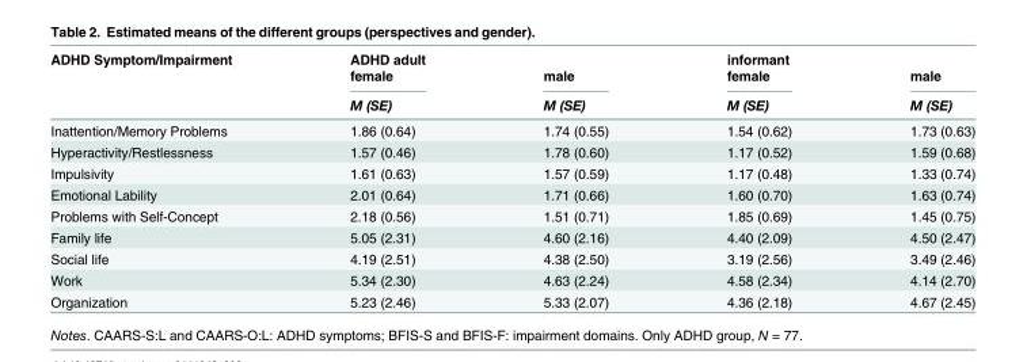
<table><thead><tr><td rowspan="3">ADHD Symptom/Impairment</td><td rowspan="3">ADHD adult female M (SE)</td><td rowspan="3">male M (SE)</td><td rowspan="3">informant female M (SE)</td><td rowspan="3">male M (SE)</td></tr><tr></tr><tr></tr></thead><tbody><tr><td>Inattention/Memory Problems</td><td>1.86 (0.64)</td><td>1.74 (0.55)</td><td>1.54 (0.62)</td><td>1.73 (0.63)</td></tr><tr><td>Hyperactivity/Restlessness</td><td>1.57 (0.46)</td><td>1.78 (0.60)</td><td>1.17 (0.52)</td><td>1.59 (0.68)</td></tr><tr><td>Impulsivity</td><td>1.61 (0.63)</td><td>1.57 (0.59)</td><td>1.17 (0.48)</td><td>1.33 (0.74)</td></tr><tr><td>Emotional Lability</td><td>2.01 (0.64)</td><td>1.71 (0.66)</td><td>1.60 (0.70)</td><td>1.63 (0.74)</td></tr><tr><td>Problems with Self-Concept</td><td>2.18 (0.56)</td><td>1.51 (0.71)</td><td>1.85 (0.69)</td><td>1.45 (0.75)</td></tr><tr><td>Family life</td><td>5.05 (2.31)</td><td>4.60 (2.16)</td><td>4.40 (2.09)</td><td>4.50 (2.47)</td></tr><tr><td>Social life</td><td>4.19 (2.51)</td><td>4.38 (2.50)</td><td>3.19 (2.56)</td><td>3.49 (2.46)</td></tr><tr><td>Work</td><td>5.34 (2.30)</td><td>4.63 (2.24)</td><td>4.58 (2.34)</td><td>4.14 (2.70)</td></tr><tr><td>Organization</td><td>5.23 (2.46)</td><td>5.33 (2.07)</td><td>4.36 (2.18)</td><td>4.67 (2.45)</td></tr></tbody></table>